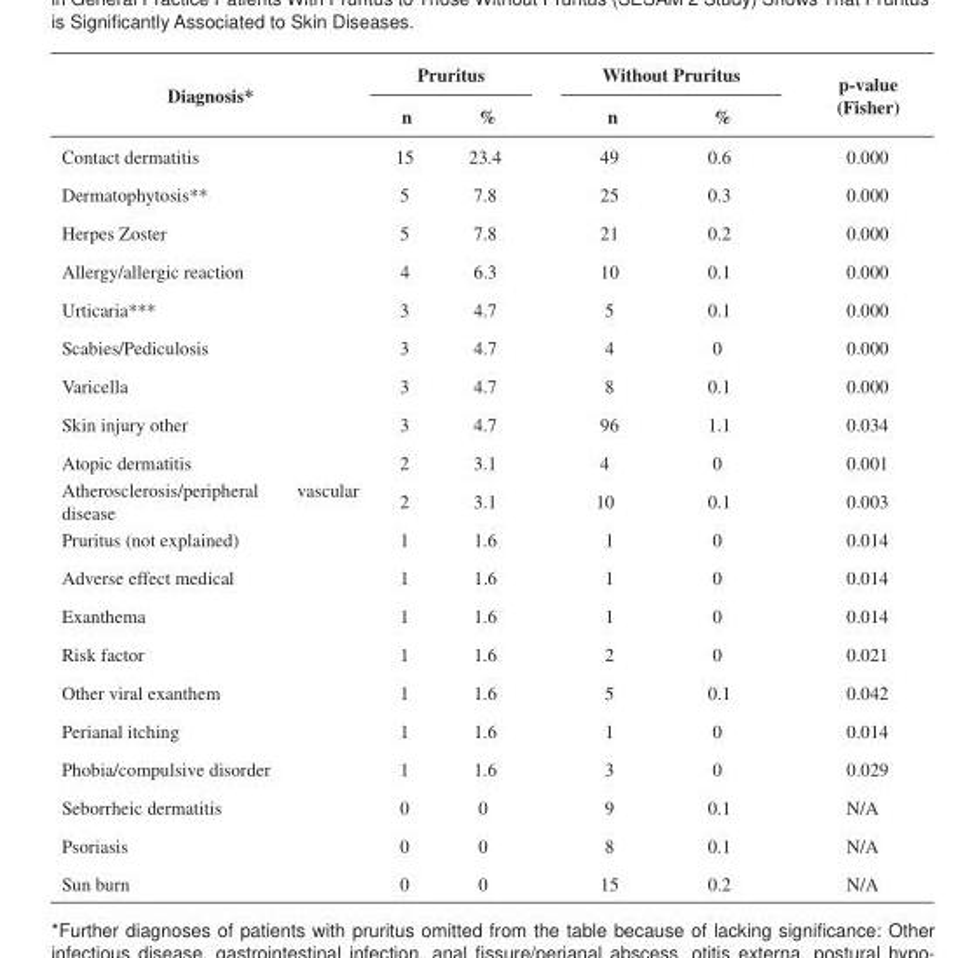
<table><thead><tr><td rowspan="2">Diagnosis*</td><td colspan="2">Pruritus</td><td colspan="2">Without Pruritus</td><td rowspan="2">p-value (Fisher)</td></tr><tr><td>n</td><td>%</td><td>n</td><td>%</td></tr></thead><tbody><tr><td>Contact dermatitis</td><td>15</td><td>23.4</td><td>49</td><td>0.6</td><td>0.000</td></tr><tr><td>Dermatophytosis**</td><td>5</td><td>7.8</td><td>25</td><td>0.3</td><td>0.000</td></tr><tr><td>Herpes Zoster</td><td>5</td><td>7.8</td><td>21</td><td>0.2</td><td>0.000</td></tr><tr><td>Allergy/allergic reaction</td><td>4</td><td>6.3</td><td>10</td><td>0.1</td><td>0.000</td></tr><tr><td>Urticaria***</td><td>3</td><td>4.7</td><td>5</td><td>0.1</td><td>0.000</td></tr><tr><td>Scabies/Pediculosis</td><td>3</td><td>4.7</td><td>4</td><td>0</td><td>0.000</td></tr><tr><td>Varicella</td><td>3</td><td>4.7</td><td>8</td><td>0.1</td><td>0.000</td></tr><tr><td>Skin injury other</td><td>3</td><td>4.7</td><td>96</td><td>1.1</td><td>0.034</td></tr><tr><td>Atopic dermatitis</td><td>2</td><td>3.1</td><td>4</td><td>0</td><td>0.001</td></tr><tr><td>Atherosclerosis/peripheral vascular disease</td><td>2</td><td>3.1</td><td>10</td><td>0.1</td><td>0.003</td></tr><tr><td>Pruritus (not explained)</td><td>1</td><td>1.6</td><td>1</td><td>0</td><td>0.014</td></tr><tr><td>Adverse effect medical</td><td>1</td><td>1.6</td><td>1</td><td>0</td><td>0.014</td></tr><tr><td>Exanthema</td><td>1</td><td>1.6</td><td>1</td><td>0</td><td>0.014</td></tr><tr><td>Risk factor</td><td>1</td><td>1.6</td><td>2</td><td>0</td><td>0.021</td></tr><tr><td>Other viral exanthem</td><td>1</td><td>1.6</td><td>5</td><td>0.1</td><td>0.042</td></tr><tr><td>Perianal itching</td><td>1</td><td>1.6</td><td>1</td><td>0</td><td>0.014</td></tr><tr><td>Phobia/compulsive disorder</td><td>1</td><td>1.6</td><td>3</td><td>0</td><td>0.029</td></tr><tr><td>Seborrheic dermatitis</td><td>0</td><td>0</td><td>9</td><td>0.1</td><td>N/A</td></tr><tr><td>Psoriasis</td><td>0</td><td>0</td><td>8</td><td>0.1</td><td>N/A</td></tr><tr><td>Sun burn</td><td>0</td><td>0</td><td>15</td><td>0.2</td><td>N/A</td></tr></tbody></table>